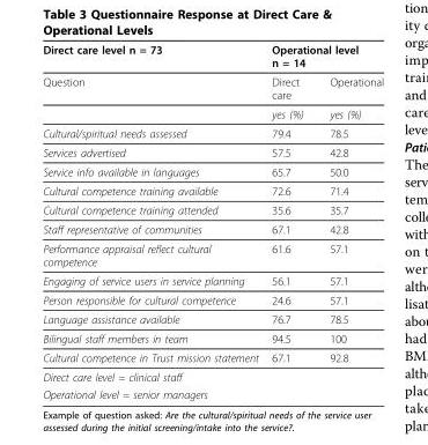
<table><thead><tr><td rowspan="2">Direct care level n = 73 Question</td><td colspan="2">Operational level n = 14</td></tr><tr><td>Direct care</td><td>Operational</td></tr></thead><tbody><tr><td></td><td>yes (%)</td><td>yes (%)</td></tr><tr><td>Cultural/spiritual needs assessed</td><td>79.4</td><td>78.5</td></tr><tr><td>Services advertised</td><td>57.5</td><td>42.8</td></tr><tr><td>Service info available in languages</td><td>65.7</td><td>50.0</td></tr><tr><td>Cultural competence training available</td><td>72.6</td><td>71.4</td></tr><tr><td>Cultural competence training attended</td><td>35.6</td><td>35.7</td></tr><tr><td>Staff representative of communities</td><td>67.1</td><td>42.8</td></tr><tr><td>Performance appraisal reflect cultural competence</td><td>61.6</td><td>57.1</td></tr><tr><td>Engaging of service users in service planning</td><td>56.1</td><td>57.1</td></tr><tr><td>Person responsible for cultural competence</td><td>24.6</td><td>57.1</td></tr><tr><td>Language assistance available</td><td>76.7</td><td>78.5</td></tr><tr><td>Bilingual staff members in team</td><td>94.5</td><td>100</td></tr><tr><td>Cultural competence in Trust mission statement</td><td>67.1</td><td>92.8</td></tr><tr><td colspan="3">Direct care level = clinical staff</td></tr><tr><td>Operational level = senior managers</td><td></td><td></td></tr></tbody></table>